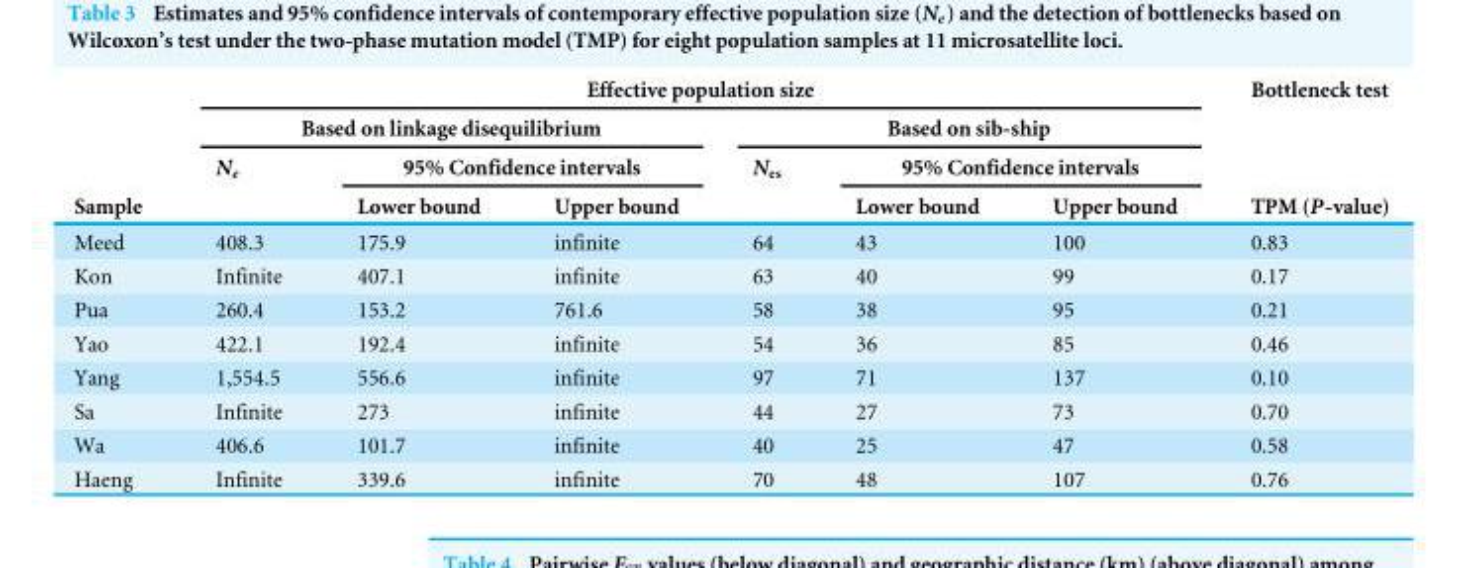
<table><thead><tr><td rowspan="4">Sample</td><td colspan="6">Effective population size</td><td rowspan="4">Bottleneck test TPM (P-value)</td></tr><tr><td colspan="3">Based on linkage disequilibrium</td><td colspan="3">Based on sib-ship</td></tr><tr><td rowspan="2">N<sub>e</sub></td><td colspan="2">95% Confidence intervals</td><td rowspan="2">N<sub>es</sub></td><td colspan="2">95% Confidence intervals</td></tr><tr><td>Lower bound</td><td>Upper bound</td><td>Lower bound</td><td>Upper bound</td></tr></thead><tbody><tr><td>Meed</td><td>408.3</td><td>175.9</td><td>infinite</td><td>64</td><td>43</td><td>100</td><td>0.83</td></tr><tr><td>Kon</td><td>Infinite</td><td>407.1</td><td>infinite</td><td>63</td><td>40</td><td>99</td><td>0.17</td></tr><tr><td>Pua</td><td>260.4</td><td>153.2</td><td>761.6</td><td>58</td><td>38</td><td>95</td><td>0.21</td></tr><tr><td>Yao</td><td>422.1</td><td>192.4</td><td>infinite</td><td>54</td><td>36</td><td>85</td><td>0.46</td></tr><tr><td>Yang</td><td>1,554.5</td><td>556.6</td><td>infinite</td><td>97</td><td>71</td><td>137</td><td>0.10</td></tr><tr><td>Sa</td><td>Infinite</td><td>273</td><td>infinite</td><td>44</td><td>27</td><td>73</td><td>0.70</td></tr><tr><td>Wa</td><td>406.6</td><td>101.7</td><td>infinite</td><td>40</td><td>25</td><td>47</td><td>0.58</td></tr><tr><td>Haeng</td><td>Infinite</td><td>339.6</td><td>infinite</td><td>70</td><td>48</td><td>107</td><td>0.76</td></tr></tbody></table>